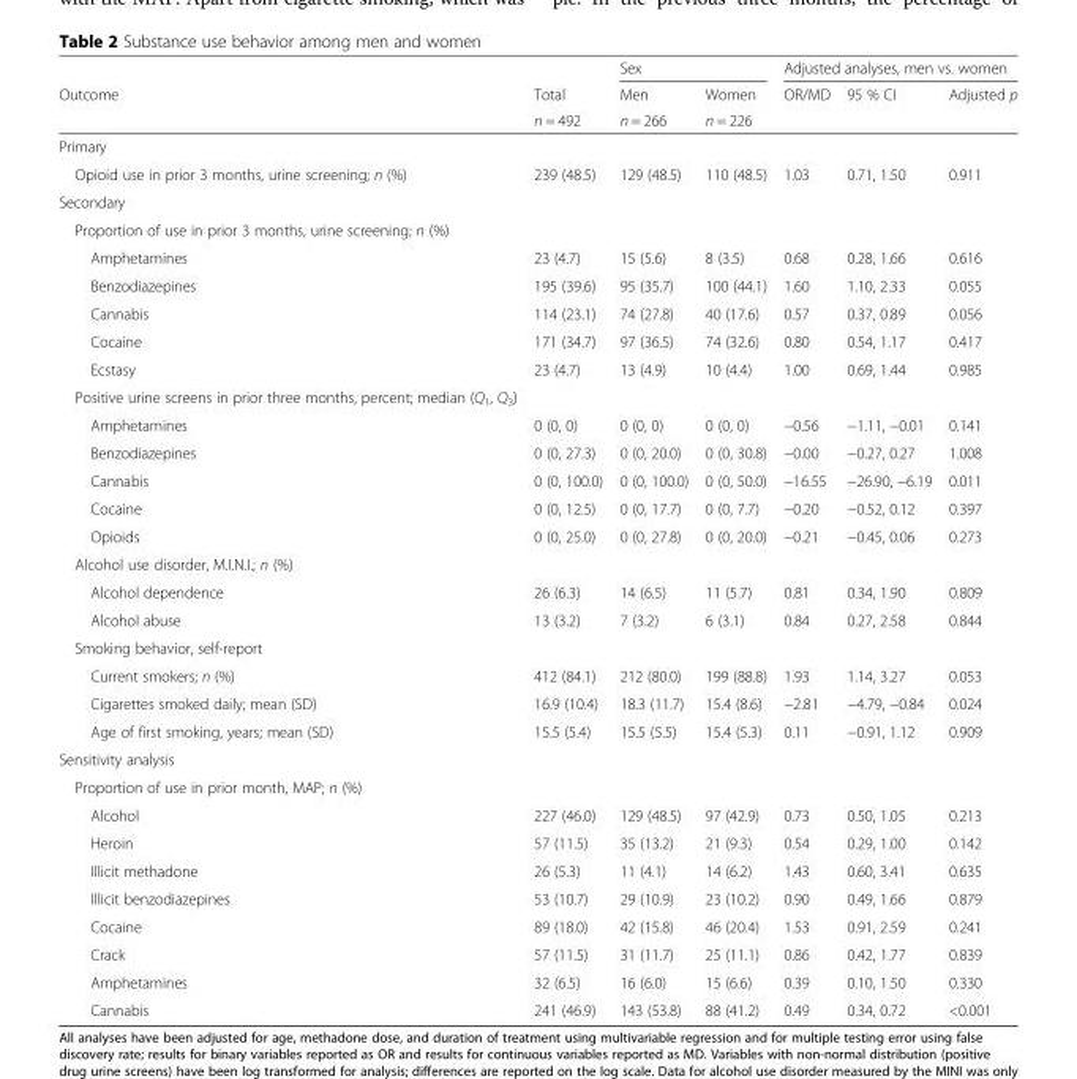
<table><thead><tr><td rowspan="3">Outcome</td><td rowspan="3">Total n = 492</td><td colspan="2">Sex</td><td colspan="3">Adjusted analyses, men vs. women</td></tr><tr><td rowspan="2">Men n = 266</td><td rowspan="2">Women n = 226</td><td rowspan="2">OR/MD</td><td rowspan="2">95 % CI</td><td rowspan="2">Adjusted p</td></tr><tr></tr></thead><tbody><tr><td colspan="7">Primary</td></tr><tr><td>Opioid use in prior 3 months, urine screening; n (%)</td><td>239 (48.5)</td><td>129 (48.5)</td><td>110 (48.5)</td><td>1.03</td><td>0.71, 1.50</td><td>0.911</td></tr><tr><td colspan="7">Secondary</td></tr><tr><td colspan="7">Proportion of use in prior 3 months, urine screening; n (%)</td></tr><tr><td>Amphetamines</td><td>23 (4.7)</td><td>15 (5.6)</td><td>8 (3.5)</td><td>0.68</td><td>0.28, 1.66</td><td>0.616</td></tr><tr><td>Benzodiazepines</td><td>195 (39.6)</td><td>95 (35.7)</td><td>100 (44.1)</td><td>1.60</td><td>1.10, 2.33</td><td>0.055</td></tr><tr><td>Cannabis</td><td>114 (23.1)</td><td>74 (27.8)</td><td>40 (17.6)</td><td>0.57</td><td>0.37, 0.89</td><td>0.056</td></tr><tr><td>Cocaine</td><td>171 (34.7)</td><td>97 (36.5)</td><td>74 (32.6)</td><td>0.80</td><td>0.54, 1.17</td><td>0.417</td></tr><tr><td>Ecstasy</td><td>23 (4.7)</td><td>13 (4.9)</td><td>10 (4.4)</td><td>1.00</td><td>0.69, 1.44</td><td>0.985</td></tr><tr><td colspan="7">Positive urine screens in prior three months, percent; median (Q<sub>1</sub>, Q<sub>3</sub>)</td></tr><tr><td>Amphetamines</td><td>0 (0, 0)</td><td>0 (0, 0)</td><td>0 (0, 0)</td><td>−0.56</td><td>−1.11, −0.01</td><td>0.141</td></tr><tr><td>Benzodiazepines</td><td>0 (0, 27.3)</td><td>0 (0, 20.0)</td><td>0 (0, 30.8)</td><td>−0.00</td><td>−0.27, 0.27</td><td>1.008</td></tr><tr><td>Cannabis</td><td>0 (0, 100.0)</td><td>0 (0, 100.0)</td><td>0 (0, 50.0)</td><td>−16.55</td><td>−26.90, −6.19</td><td>0.011</td></tr><tr><td>Cocaine</td><td>0 (0, 12.5)</td><td>0 (0, 17.7)</td><td>0 (0, 7.7)</td><td>−0.20</td><td>−0.52, 0.12</td><td>0.397</td></tr><tr><td>Opioids</td><td>0 (0, 25.0)</td><td>0 (0, 27.8)</td><td>0 (0, 20.0)</td><td>−0.21</td><td>−0.45, 0.06</td><td>0.273</td></tr><tr><td colspan="7">Alcohol use disorder, M.I.N.I.; n (%)</td></tr><tr><td>Alcohol dependence</td><td>26 (6.3)</td><td>14 (6.5)</td><td>11 (5.7)</td><td>0.81</td><td>0.34, 1.90</td><td>0.809</td></tr><tr><td>Alcohol abuse</td><td>13 (3.2)</td><td>7 (3.2)</td><td>6 (3.1)</td><td>0.84</td><td>0.27, 2.58</td><td>0.844</td></tr><tr><td colspan="7">Smoking behavior, self-report</td></tr><tr><td>Current smokers; n (%)</td><td>412 (84.1)</td><td>212 (80.0)</td><td>199 (88.8)</td><td>1.93</td><td>1.14, 3.27</td><td>0.053</td></tr><tr><td>Cigarettes smoked daily; mean (SD)</td><td>16.9 (10.4)</td><td>18.3 (11.7)</td><td>15.4 (8.6)</td><td>−2.81</td><td>−4.79, −0.84</td><td>0.024</td></tr><tr><td>Age of first smoking, years; mean (SD)</td><td>15.5 (5.4)</td><td>15.5 (5.5)</td><td>15.4 (5.3)</td><td>0.11</td><td>−0.91, 1.12</td><td>0.909</td></tr><tr><td colspan="7">Sensitivity analysis</td></tr><tr><td colspan="7">Proportion of use in prior month, MAP; n (%)</td></tr><tr><td>Alcohol</td><td>227 (46.0)</td><td>129 (48.5)</td><td>97 (42.9)</td><td>0.73</td><td>0.50, 1.05</td><td>0.213</td></tr><tr><td>Heroin</td><td>57 (11.5)</td><td>35 (13.2)</td><td>21 (9.3)</td><td>0.54</td><td>0.29, 1.00</td><td>0.142</td></tr><tr><td>Illicit methadone</td><td>26 (5.3)</td><td>11 (4.1)</td><td>14 (6.2)</td><td>1.43</td><td>0.60, 3.41</td><td>0.635</td></tr><tr><td>Illicit benzodiazepines</td><td>53 (10.7)</td><td>29 (10.9)</td><td>23 (10.2)</td><td>0.90</td><td>0.49, 1.66</td><td>0.879</td></tr><tr><td>Cocaine</td><td>89 (18.0)</td><td>42 (15.8)</td><td>46 (20.4)</td><td>1.53</td><td>0.91, 2.59</td><td>0.241</td></tr><tr><td>Crack</td><td>57 (11.5)</td><td>31 (11.7)</td><td>25 (11.1)</td><td>0.86</td><td>0.42, 1.77</td><td>0.839</td></tr><tr><td>Amphetamines</td><td>32 (6.5)</td><td>16 (6.0)</td><td>15 (6.6)</td><td>0.39</td><td>0.10, 1.50</td><td>0.330</td></tr><tr><td>Cannabis</td><td>241 (46.9)</td><td>143 (53.8)</td><td>88 (41.2)</td><td>0.49</td><td>0.34, 0.72</td><td>&lt;0.001</td></tr></tbody></table>